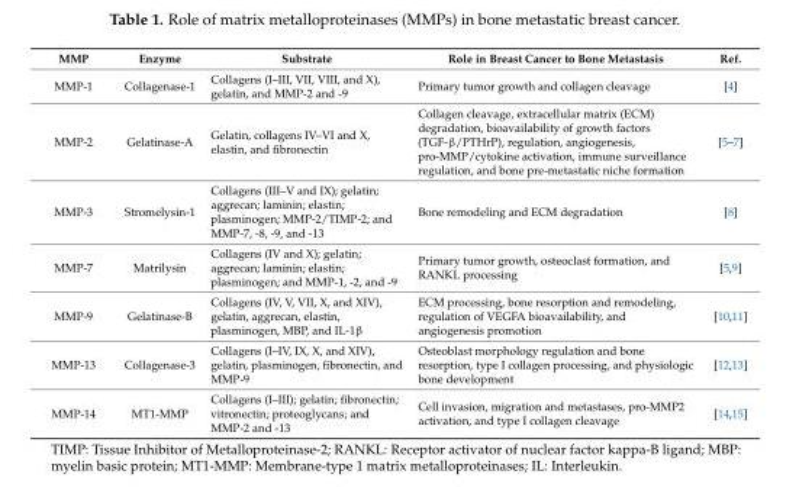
<table><thead><tr><td>MMP</td><td>Enzyme</td><td>Substrate</td><td>Role in Breast Cancer to Bone Metastasis</td><td>Ref.</td></tr></thead><tbody><tr><td>MMP-1</td><td>Collagenase-1</td><td>Collagens (I–III, VII, VIII, and X), gelatin, and MMP-2 and -9</td><td>Primary tumor growth and collagen cleavage</td><td>[4]</td></tr><tr><td>MMP-2</td><td>Gelatinase-A</td><td>Gelatin, collagens IV–VI and X, elastin, and fibronectin</td><td>Collagen cleavage, extracellular matrix (ECM) degradation, bioavailability of growth factors (TGF-β/PTHrP), regulation, angiogenesis, pro-MMP/cytokine activation, immune surveillance regulation, and bone pre-metastatic niche formation</td><td>[5–7]</td></tr><tr><td>MMP-3</td><td>Stromelysin-1</td><td>Collagens (III–V and IX); gelatin; aggrecan; laminin; elastin; plasminogen; MMP-2/TIMP-2; and MMP-7, -8, -9, and -13</td><td>Bone remodeling and ECM degradation</td><td>[8]</td></tr><tr><td>MMP-7</td><td>Matrilysin</td><td>Collagens (IV and X); gelatin; aggrecan; laminin; elastin; plasminogen; and MMP-1, -2, and -9</td><td>Primary tumor growth, osteoclast formation, and RANKL processing</td><td>[5,9]</td></tr><tr><td>MMP-9</td><td>Gelatinase-B</td><td>Collagens (IV, V, VII, X, and XIV), gelatin, aggrecan, elastin, plasminogen, MBP, and IL-1β</td><td>ECM processing, bone resorption and remodeling, regulation of VEGFA bioavailability, and angiogenesis promotion</td><td>[10,11]</td></tr><tr><td>MMP-13</td><td>Collagenase-3</td><td>Collagens (I–IV, IX, X, and XIV), gelatin, plasminogen, fibronectin, and MMP-9</td><td>Osteoblast morphology regulation and bone resorption, type I collagen processing, and physiologic bone development</td><td>[12,13]</td></tr><tr><td>MMP-14</td><td>MT1-MMP</td><td>Collagens (I–III); gelatin; fibronectin; vitronectin; proteoglycans; and MMP-2 and -13</td><td>Cell invasion, migration and metastases, pro-MMP2 activation, and type I collagen cleavage</td><td>[14,15]</td></tr></tbody></table>